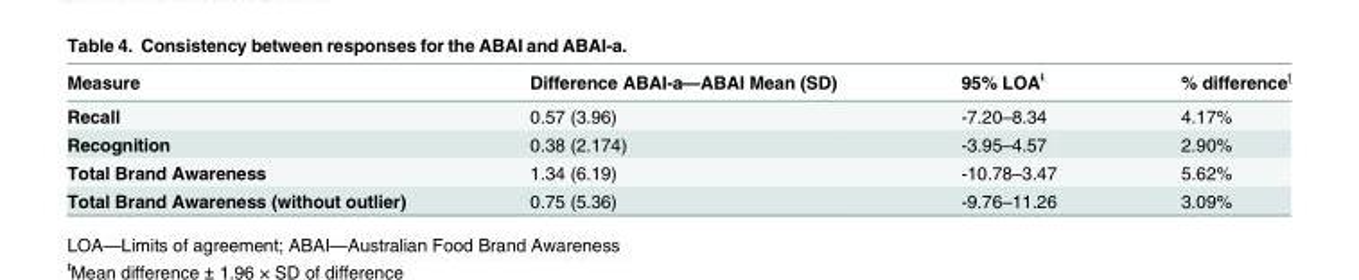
<table><thead><tr><td>Measure</td><td>Difference ABAI-a—ABAI Mean (SD)</td><td>95% LOA<sup>ŧ</sup></td><td>% difference<sup>ʈ</sup></td></tr></thead><tbody><tr><td>Recall</td><td>0.57 (3.96)</td><td>-7.20–8.34</td><td>4.17%</td></tr><tr><td>Recognition</td><td>0.38 (2.174)</td><td>-3.95–4.57</td><td>2.90%</td></tr><tr><td>Total Brand Awareness</td><td>1.34 (6.19)</td><td>-10.78–3.47</td><td>5.62%</td></tr><tr><td>Total Brand Awareness (without outlier)</td><td>0.75 (5.36)</td><td>-9.76–11.26</td><td>3.09%</td></tr></tbody></table>